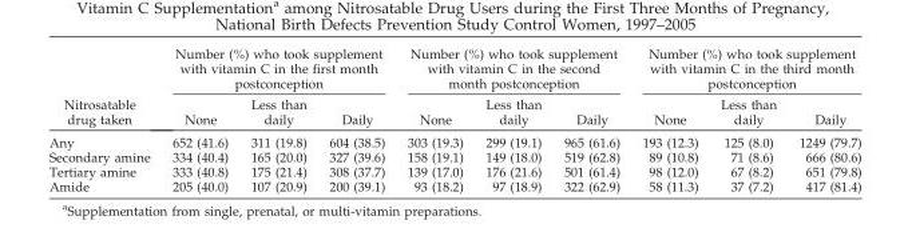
<table><thead><tr><td rowspan="2">Nitrosatable drug taken</td><td colspan="3">Number (%) who took supplement with vitamin C in the first month postconception</td><td colspan="3">Number (%) who took supplement with vitamin C in the second month postconception</td><td colspan="3">Number (%) who took supplement with vitamin C in the third month postconception</td></tr><tr><td>None</td><td>Less than daily</td><td>Daily</td><td>None</td><td>Less than daily</td><td>Daily</td><td>None</td><td>Less than daily</td><td>Daily</td></tr></thead><tbody><tr><td>Any</td><td>652 (41.6)</td><td>311 (19.8)</td><td>604 (38.5)</td><td>303 (19.3)</td><td>299 (19.1)</td><td>965 (61.6)</td><td>193 (12.3)</td><td>125 (8.0)</td><td>1249 (79.7)</td></tr><tr><td>Secondary amine</td><td>334 (40.4)</td><td>165 (20.0)</td><td>327 (39.6)</td><td>158 (19.1)</td><td>149 (18.0)</td><td>519 (62.8)</td><td>89 (10.8)</td><td>71 (8.6)</td><td>666 (80.6)</td></tr><tr><td>Tertiary amine</td><td>333 (40.8)</td><td>175 (21.4)</td><td>308 (37.7)</td><td>139 (17.0)</td><td>176 (21.6)</td><td>501 (61.4)</td><td>98 (12.0)</td><td>67 (8.2)</td><td>651 (79.8)</td></tr><tr><td>Amide</td><td>205 (40.0)</td><td>107 (20.9)</td><td>200 (39.1)</td><td>93 (18.2)</td><td>97 (18.9)</td><td>322 (62.9)</td><td>58 (11.3)</td><td>37 (7.2)</td><td>417 (81.4)</td></tr></tbody></table>